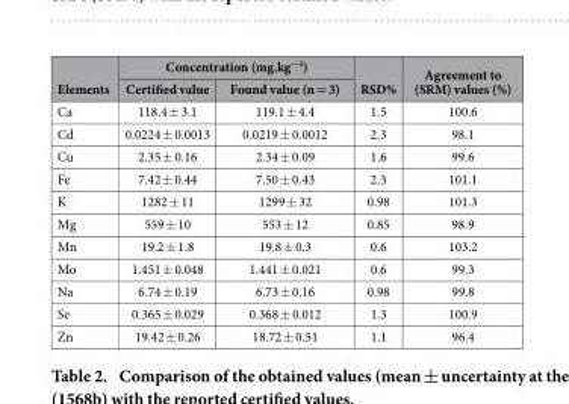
<table><thead><tr><td rowspan="2">Elements</td><td colspan="2">Concentration (mg.kg<sup>−1</sup>)</td><td rowspan="2">RSD%</td><td rowspan="2">Agreement to (SRM) values (%)</td></tr><tr><td>Certified value</td><td>Found value (n = 3)</td></tr></thead><tbody><tr><td>Ca</td><td>118.4 ± 3.1</td><td>119.1 ± 4.4</td><td>1.5</td><td>100.6</td></tr><tr><td>Cd</td><td>0.0224 ± 0.0013</td><td>0.0219 ± 0.0012</td><td>2.3</td><td>98.1</td></tr><tr><td>Cu</td><td>2.35 ± 0.16</td><td>2.34 ± 0.09</td><td>1.6</td><td>99.6</td></tr><tr><td>Fe</td><td>7.42 ± 0.44</td><td>7.50 ± 0.43</td><td>2.3</td><td>101.1</td></tr><tr><td>K</td><td>1282 ± 11</td><td>1299 ± 32</td><td>0.98</td><td>101.3</td></tr><tr><td>Mg</td><td>559 ± 10</td><td>553 ± 12</td><td>0.85</td><td>98.9</td></tr><tr><td>Mn</td><td>19.2 ± 1.8</td><td>19.8 ± 0.3</td><td>0.6</td><td>103.2</td></tr><tr><td>Mo</td><td>1.451 ± 0.048</td><td>1.441 ± 0.021</td><td>0.6</td><td>99.3</td></tr><tr><td>Na</td><td>6.74 ± 0.19</td><td>6.73 ± 0.16</td><td>0.98</td><td>99.8</td></tr><tr><td>Se</td><td>0.365 ± 0.029</td><td>0.368 ± 0.012</td><td>1.3</td><td>100.9</td></tr><tr><td>Zn</td><td>19.42 ± 0.26</td><td>18.72 ± 0.51</td><td>1.1</td><td>96.4</td></tr></tbody></table>